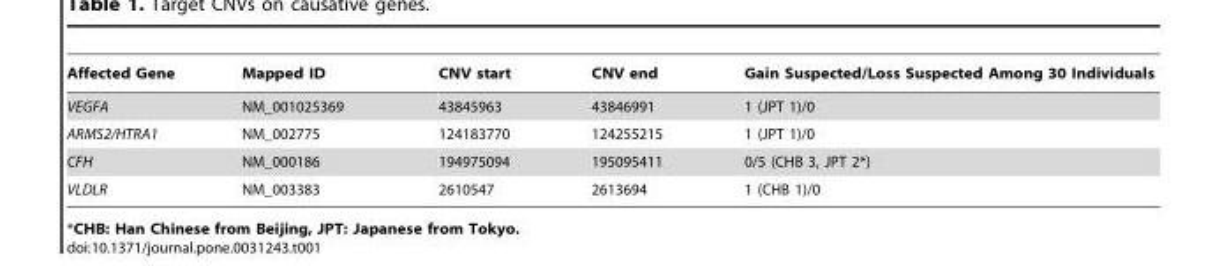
<table><thead><tr><td>Affected Gene</td><td>Mapped ID</td><td>CNV start</td><td>CNV end</td><td>Gain Suspected/Loss Suspected Among 30 Individuals</td></tr></thead><tbody><tr><td>VEGFA</td><td>NM_001025369</td><td>43845963</td><td>43846991</td><td>1 (JPT 1)/0</td></tr><tr><td>ARMS2/HTRA1</td><td>NM_002775</td><td>124183770</td><td>124255215</td><td>1 (JPT 1)/0</td></tr><tr><td>CFH</td><td>NM_000186</td><td>194975094</td><td>195095411</td><td>0/5 (CHB 3, JPT 2*)</td></tr><tr><td>VLDLR</td><td>NM_003383</td><td>2610547</td><td>2613694</td><td>1 (CHB 1)/0</td></tr></tbody></table>